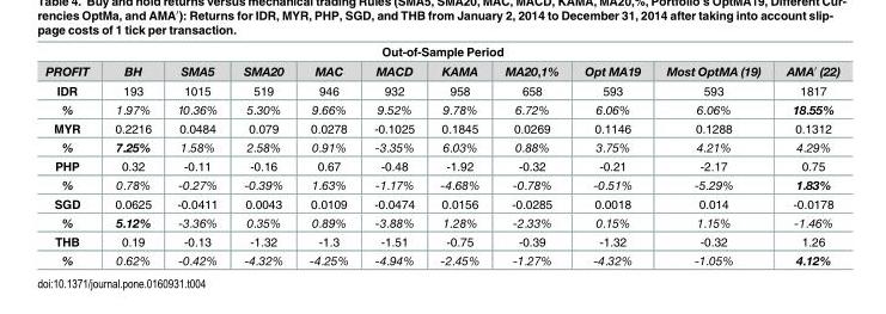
<table><thead><tr><td colspan="11">Out-of-Sample Period</td></tr><tr><td>PROFIT</td><td>BH</td><td>SMA5</td><td>SMA20</td><td>MAC</td><td>MACD</td><td>KAMA</td><td>MA20,1%</td><td>Opt MA19</td><td>Most OptMA (19)</td><td>AMA′ (22)</td></tr></thead><tbody><tr><td>IDR</td><td>193</td><td>1015</td><td>519</td><td>946</td><td>932</td><td>958</td><td>658</td><td>593</td><td>593</td><td>1817</td></tr><tr><td>%</td><td>1.97%</td><td>10.36%</td><td>5.30%</td><td>9.66%</td><td>9.52%</td><td>9.78%</td><td>6.72%</td><td>6.06%</td><td>6.06%</td><td>18.55%</td></tr><tr><td>MYR</td><td>0.2216</td><td>0.0484</td><td>0.079</td><td>0.0278</td><td>-0.1025</td><td>0.1845</td><td>0.0269</td><td>0.1146</td><td>0.1288</td><td>0.1312</td></tr><tr><td>%</td><td>7.25%</td><td>1.58%</td><td>2.58%</td><td>0.91%</td><td>-3.35%</td><td>6.03%</td><td>0.88%</td><td>3.75%</td><td>4.21%</td><td>4.29%</td></tr><tr><td>PHP</td><td>0.32</td><td>-0.11</td><td>-0.16</td><td>0.67</td><td>-0.48</td><td>-1.92</td><td>-0.32</td><td>-0.21</td><td>-2.17</td><td>0.75</td></tr><tr><td>%</td><td>0.78%</td><td>-0.27%</td><td>-0.39%</td><td>1.63%</td><td>-1.17%</td><td>-4.68%</td><td>-0.78%</td><td>-0.51%</td><td>-5.29%</td><td>1.83%</td></tr><tr><td>SGD</td><td>0.0625</td><td>-0.0411</td><td>0.0043</td><td>0.0109</td><td>-0.0474</td><td>0.0156</td><td>-0.0285</td><td>0.0018</td><td>0.014</td><td>-0.0178</td></tr><tr><td>%</td><td>5.12%</td><td>-3.36%</td><td>0.35%</td><td>0.89%</td><td>-3.88%</td><td>1.28%</td><td>-2.33%</td><td>0.15%</td><td>1.15%</td><td>-1.46%</td></tr><tr><td>THB</td><td>0.19</td><td>-0.13</td><td>-1.32</td><td>-1.3</td><td>-1.51</td><td>-0.75</td><td>-0.39</td><td>-1.32</td><td>-0.32</td><td>1.26</td></tr><tr><td>%</td><td>0.62%</td><td>-0.42%</td><td>-4.32%</td><td>-4.25%</td><td>-4.94%</td><td>-2.45%</td><td>-1.27%</td><td>-4.32%</td><td>-1.05%</td><td>4.12%</td></tr></tbody></table>